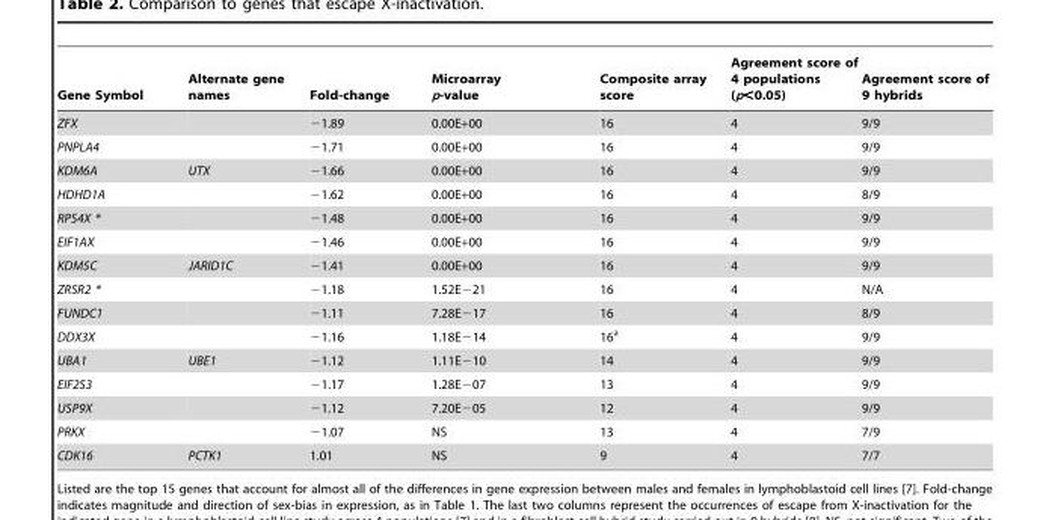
<table><thead><tr><td>Gene Symbol</td><td>Alternate gene names</td><td>Fold-change</td><td>Microarray p-value</td><td>Composite array score</td><td>Agreement score of 4 populations (p&lt;0.05)</td><td>Agreement score of 9 hybrids</td></tr></thead><tbody><tr><td>ZFX</td><td></td><td>−1.89</td><td>0.00E+00</td><td>16</td><td>4</td><td>9/9</td></tr><tr><td>PNPLA4</td><td></td><td>−1.71</td><td>0.00E+00</td><td>16</td><td>4</td><td>9/9</td></tr><tr><td>KDM6A</td><td>UTX</td><td>−1.66</td><td>0.00E+00</td><td>16</td><td>4</td><td>9/9</td></tr><tr><td>HDHD1A</td><td></td><td>−1.62</td><td>0.00E+00</td><td>16</td><td>4</td><td>8/9</td></tr><tr><td>RPS4X *</td><td></td><td>−1.48</td><td>0.00E+00</td><td>16</td><td>4</td><td>9/9</td></tr><tr><td>EIF1AX</td><td></td><td>−1.46</td><td>0.00E+00</td><td>16</td><td>4</td><td>9/9</td></tr><tr><td>KDM5C</td><td>JARID1C</td><td>−1.41</td><td>0.00E+00</td><td>16</td><td>4</td><td>9/9</td></tr><tr><td>ZRSR2 *</td><td></td><td>−1.18</td><td>1.52E−21</td><td>16</td><td>4</td><td>N/A</td></tr><tr><td>FUNDC1</td><td></td><td>−1.11</td><td>7.28E−17</td><td>16</td><td>4</td><td>8/9</td></tr><tr><td>DDX3X</td><td></td><td>−1.16</td><td>1.18E−14</td><td>16<sup>a</sup></td><td>4</td><td>9/9</td></tr><tr><td>UBA1</td><td>UBE1</td><td>−1.12</td><td>1.11E−10</td><td>14</td><td>4</td><td>9/9</td></tr><tr><td>EIF2S3</td><td></td><td>−1.17</td><td>1.28E−07</td><td>13</td><td>4</td><td>9/9</td></tr><tr><td>USP9X</td><td></td><td>−1.12</td><td>7.20E−05</td><td>12</td><td>4</td><td>9/9</td></tr><tr><td>PRKX</td><td></td><td>−1.07</td><td>NS</td><td>13</td><td>4</td><td>7/9</td></tr><tr><td>CDK16</td><td>PCTK1</td><td>1.01</td><td>NS</td><td>9</td><td>4</td><td>7/7</td></tr></tbody></table>